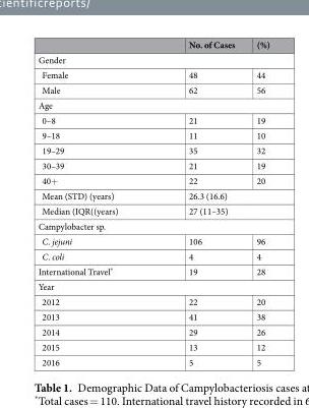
<table><thead><tr><td></td><td>No. of Cases</td><td>(%)</td></tr></thead><tbody><tr><td colspan="3">Gender</td></tr><tr><td>Female</td><td>48</td><td>44</td></tr><tr><td>Male</td><td>62</td><td>56</td></tr><tr><td colspan="3">Age</td></tr><tr><td>0–8</td><td>21</td><td>19</td></tr><tr><td>9–18</td><td>11</td><td>10</td></tr><tr><td>19–29</td><td>35</td><td>32</td></tr><tr><td>30–39</td><td>21</td><td>19</td></tr><tr><td>40+</td><td>22</td><td>20</td></tr><tr><td>Mean (STD) (years)</td><td colspan="2">26.3 (16.6)</td></tr><tr><td>Median (IQR((years)</td><td colspan="2">27 (11–35)</td></tr><tr><td colspan="3">Campylobacter sp.</td></tr><tr><td>C. jejuni</td><td>106</td><td>96</td></tr><tr><td>C. coli</td><td>4</td><td>4</td></tr><tr><td>International Travel*</td><td>19</td><td>28</td></tr><tr><td colspan="3">Year</td></tr><tr><td>2012</td><td>22</td><td>20</td></tr><tr><td>2013</td><td>41</td><td>38</td></tr><tr><td>2014</td><td>29</td><td>26</td></tr><tr><td>2015</td><td>13</td><td>12</td></tr><tr><td>2016</td><td>5</td><td>5</td></tr></tbody></table>